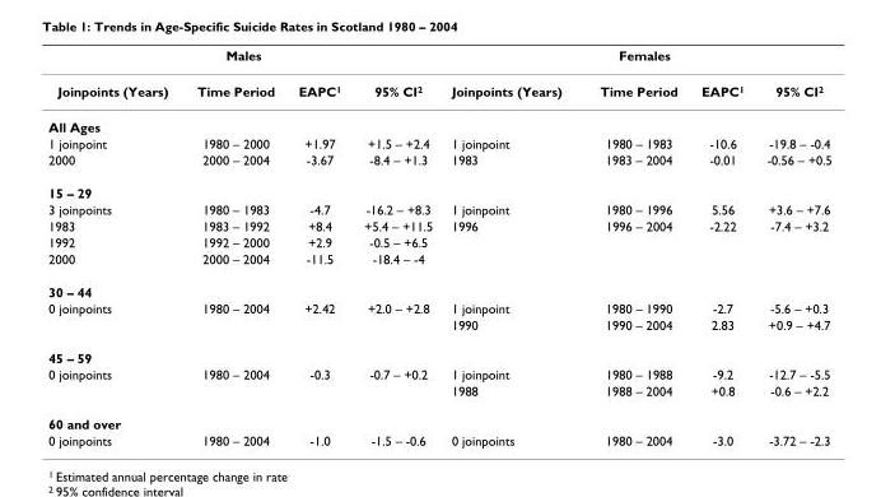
<table><thead><tr><td colspan="4">Males</td><td colspan="4">Females</td></tr><tr><td>Joinpoints (Years)</td><td>Time Period</td><td>EAPC<sup>1</sup></td><td>95% CI<sup>2</sup></td><td>Joinpoints (Years)</td><td>Time Period</td><td>EAPC<sup>1</sup></td><td>95% CI<sup>2</sup></td></tr></thead><tbody><tr><td colspan="8">All Ages</td></tr><tr><td>1 joinpoint</td><td>1980 – 2000</td><td>+1.97</td><td>+1.5 – +2.4</td><td>1 joinpoint</td><td>1980 – 1983</td><td>-10.6</td><td>-19.8 – -0.4</td></tr><tr><td>2000</td><td>2000 – 2004</td><td>-3.67</td><td>-8.4 – +1.3</td><td>1983</td><td>1983 – 2004</td><td>-0.01</td><td>-0.56 – +0.5</td></tr><tr><td colspan="8">15 – 29</td></tr><tr><td>3 joinpoints</td><td>1980 – 1983</td><td>-4.7</td><td>-16.2 – +8.3</td><td>1 joinpoint</td><td>1980 – 1996</td><td>5.56</td><td>+3.6 – +7.6</td></tr><tr><td>1983</td><td>1983 – 1992</td><td>+8.4</td><td>+5.4 – +11.5</td><td>1996</td><td>1996 – 2004</td><td>-2.22</td><td>-7.4 – +3.2</td></tr><tr><td>1992</td><td>1992 – 2000</td><td>+2.9</td><td>-0.5 – +6.5</td><td></td><td></td><td></td><td></td></tr><tr><td>2000</td><td>2000 – 2004</td><td>-11.5</td><td>-18.4 – -4</td><td></td><td></td><td></td><td></td></tr><tr><td colspan="8">30 – 44</td></tr><tr><td rowspan="2">0 joinpoints</td><td>1980 – 2004</td><td>+2.42</td><td>+2.0 – +2.8</td><td>1 joinpoint</td><td>1980 – 1990</td><td>-2.7</td><td>-5.6 – +0.3</td></tr><tr><td></td><td></td><td></td><td>1990</td><td>1990 – 2004</td><td>2.83</td><td>+0.9 – +4.7</td></tr><tr><td colspan="8">45 – 59</td></tr><tr><td rowspan="2">0 joinpoints</td><td>1980 – 2004</td><td>-0.3</td><td>-0.7 – +0.2</td><td>1 joinpoint</td><td>1980 – 1988</td><td>-9.2</td><td>-12.7 – -5.5</td></tr><tr><td></td><td></td><td></td><td>1988</td><td>1988 – 2004</td><td>+0.8</td><td>-0.6 – +2.2</td></tr><tr><td colspan="8">60 and over</td></tr><tr><td>0 joinpoints</td><td>1980 – 2004</td><td>-1.0</td><td>-1.5 – -0.6</td><td>0 joinpoints</td><td>1980 – 2004</td><td>-3.0</td><td>-3.72 – -2.3</td></tr></tbody></table>